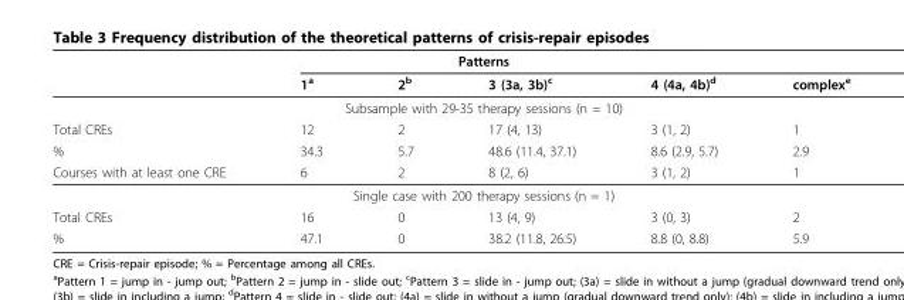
<table><thead><tr><td colspan="6">Patterns</td></tr><tr><td></td><td>1<sup>a</sup></td><td>2<sup>b</sup></td><td>3 (3a, 3b)<sup>c</sup></td><td>4 (4a, 4b)<sup>d</sup></td><td>complex<sup>e</sup></td></tr></thead><tbody><tr><td colspan="6">Subsample with 29-35 therapy sessions (n = 10)</td></tr><tr><td>Total CREs</td><td>12</td><td>2</td><td>17 (4, 13)</td><td>3 (1, 2)</td><td>1</td></tr><tr><td>%</td><td>34.3</td><td>5.7</td><td>48.6 (11.4, 37.1)</td><td>8.6 (2.9, 5.7)</td><td>2.9</td></tr><tr><td>Courses with at least one CRE</td><td>6</td><td>2</td><td>8 (2, 6)</td><td>3 (1, 2)</td><td>1</td></tr><tr><td colspan="6">Single case with 200 therapy sessions (n = 1)</td></tr><tr><td>Total CREs</td><td>16</td><td>0</td><td>13 (4, 9)</td><td>3 (0, 3)</td><td>2</td></tr><tr><td>%</td><td>47.1</td><td>0</td><td>38.2 (11.8, 26.5)</td><td>8.8 (0, 8.8)</td><td>5.9</td></tr></tbody></table>